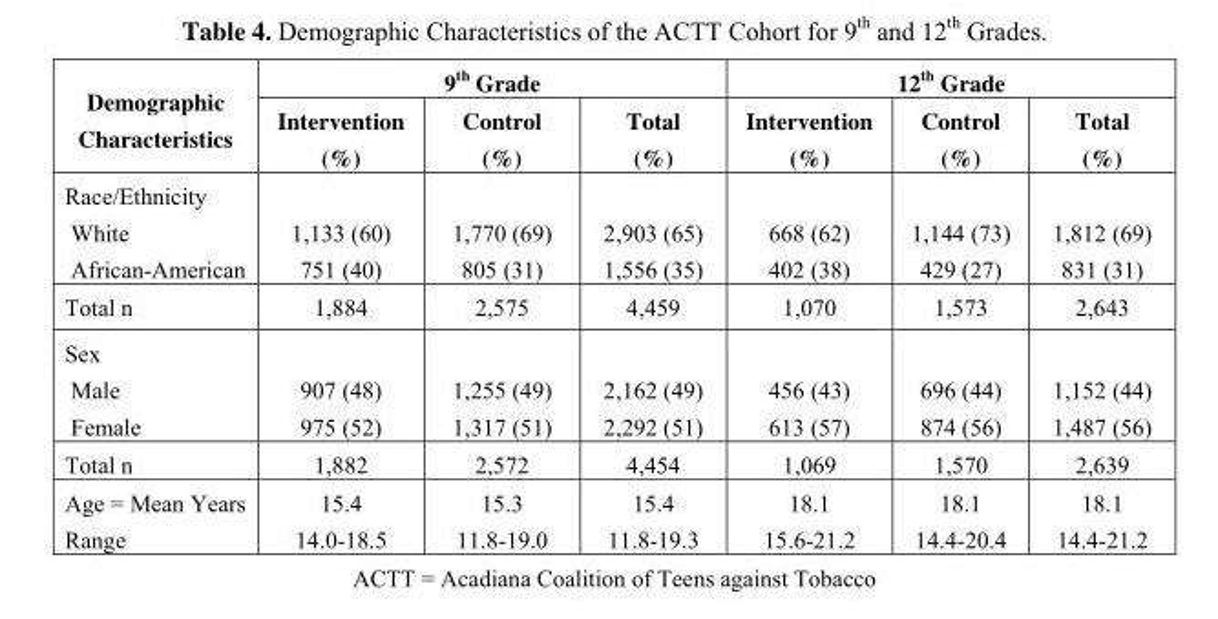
<table><thead><tr><td rowspan="2">Demographic Characteristics</td><td colspan="3">9<sup>th</sup> Grade</td><td colspan="3">12<sup>th</sup> Grade</td></tr><tr><td>Intervention (%)</td><td>Control (%)</td><td>Total (%)</td><td>Intervention (%)</td><td>Control (%)</td><td>Total (%)</td></tr></thead><tbody><tr><td>Race/Ethnicity White African-American</td><td>1,133 (60) 751 (40)</td><td>1,770 (69) 805 (31)</td><td>2,903 (65) 1,556 (35)</td><td>668 (62) 402 (38)</td><td>1,144 (73) 429 (27)</td><td>1,812 (69) 831 (31)</td></tr><tr><td>Total n</td><td>1,884</td><td>2,575</td><td>4,459</td><td>1,070</td><td>1,573</td><td>2,643</td></tr><tr><td>Sex Male Female</td><td>907 (48) 975 (52)</td><td>1,255 (49) 1,317 (51)</td><td>2,162 (49) 2,292 (51)</td><td>456 (43) 613 (57)</td><td>696 (44) 874 (56)</td><td>1,152 (44) 1,487 (56)</td></tr><tr><td>Total n</td><td>1,882</td><td>2,572</td><td>4,454</td><td>1,069</td><td>1,570</td><td>2,639</td></tr><tr><td>Age = Mean Years Range</td><td>15.4 14.0-18.5</td><td>15.3 11.8-19.0</td><td>15.4 11.8-19.3</td><td>18.1 15.6-21.2</td><td>18.1 14.4-20.4</td><td>18.1 14.4-21.2</td></tr></tbody></table>